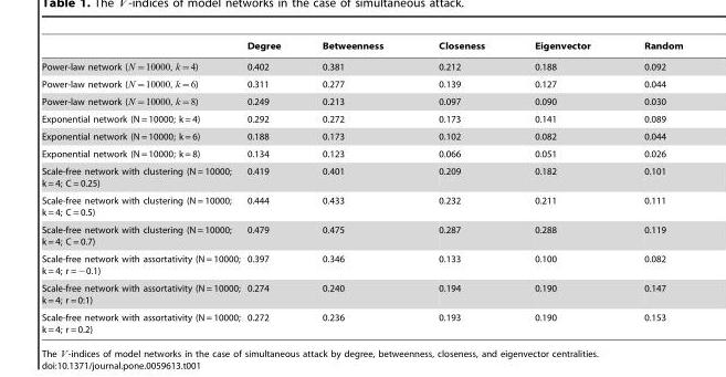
<table><thead><tr><td></td><td>Degree</td><td>Betweenness</td><td>Closeness</td><td>Eigenvector</td><td>Random</td></tr></thead><tbody><tr><td>Power-law network (N~10000, k~4)</td><td>0.402</td><td>0.381</td><td>0.212</td><td>0.188</td><td>0.092</td></tr><tr><td>Power-law network (N~10000, k~6)</td><td>0.311</td><td>0.277</td><td>0.139</td><td>0.127</td><td>0.044</td></tr><tr><td>Power-law network (N~10000, k~8)</td><td>0.249</td><td>0.213</td><td>0.097</td><td>0.090</td><td>0.030</td></tr><tr><td>Exponential network (N = 10000; k = 4)</td><td>0.292</td><td>0.272</td><td>0.173</td><td>0.141</td><td>0.089</td></tr><tr><td>Exponential network (N = 10000; k = 6)</td><td>0.188</td><td>0.173</td><td>0.102</td><td>0.082</td><td>0.044</td></tr><tr><td>Exponential network (N = 10000; k = 8)</td><td>0.134</td><td>0.123</td><td>0.066</td><td>0.051</td><td>0.026</td></tr><tr><td>Scale-free network with clustering (N = 10000; k = 4; C = 0.25)</td><td>0.419</td><td>0.401</td><td>0.209</td><td>0.182</td><td>0.101</td></tr><tr><td>Scale-free network with clustering (N = 10000; k = 4; C = 0.5)</td><td>0.444</td><td>0.433</td><td>0.232</td><td>0.211</td><td>0.111</td></tr><tr><td>Scale-free network with clustering (N = 10000; k = 4; C = 0.7)</td><td>0.479</td><td>0.475</td><td>0.287</td><td>0.288</td><td>0.119</td></tr><tr><td>Scale-free network with assortativity (N = 10000; k = 4; r = −0.1)</td><td>0.397</td><td>0.346</td><td>0.133</td><td>0.100</td><td>0.082</td></tr><tr><td>Scale-free network with assortativity (N = 10000; k = 4; r = 0:1)</td><td>0.274</td><td>0.240</td><td>0.194</td><td>0.190</td><td>0.147</td></tr><tr><td>Scale-free network with assortativity (N = 10000; k = 4; r = 0.2)</td><td>0.272</td><td>0.236</td><td>0.193</td><td>0.190</td><td>0.153</td></tr></tbody></table>